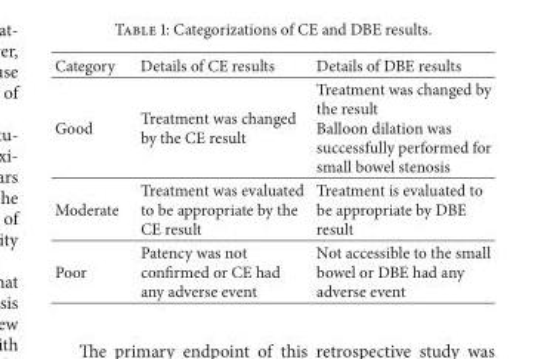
<table><thead><tr><td>Category</td><td>Details of CE results</td><td>Details of DBE results</td></tr></thead><tbody><tr><td>Good</td><td>Treatment was changed by the CE result</td><td>Treatment was changed by the result Balloon dilation was successfully performed for small bowel stenosis</td></tr><tr><td>Moderate</td><td>Treatment was evaluated to be appropriate by the CE result</td><td>Treatment is evaluated to be appropriate by DBE result</td></tr><tr><td>Poor</td><td>Patency was not confirmed or CE had any adverse event</td><td>Not accessible to the small bowel or DBE had any adverse event</td></tr></tbody></table>